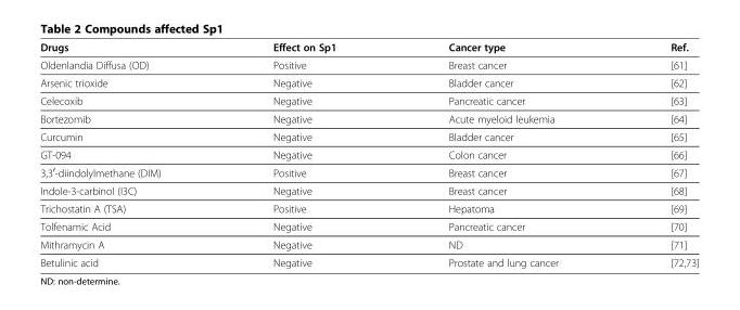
<table><thead><tr><td>Drugs</td><td>Effect on Sp1</td><td>Cancer type</td><td>Ref.</td></tr></thead><tbody><tr><td>Oldenlandia Diffusa (OD)</td><td>Positive</td><td>Breast cancer</td><td>[61]</td></tr><tr><td>Arsenic trioxide</td><td>Negative</td><td>Bladder cancer</td><td>[62]</td></tr><tr><td>Celecoxib</td><td>Negative</td><td>Pancreatic cancer</td><td>[63]</td></tr><tr><td>Bortezomib</td><td>Negative</td><td>Acute myeloid leukemia</td><td>[64]</td></tr><tr><td>Curcumin</td><td>Negative</td><td>Bladder cancer</td><td>[65]</td></tr><tr><td>GT-094</td><td>Negative</td><td>Colon cancer</td><td>[66]</td></tr><tr><td>3,3<sup>′</sup>-diindolylmethane (DIM)</td><td>Positive</td><td>Breast cancer</td><td>[67]</td></tr><tr><td>Indole-3-carbinol (I3C)</td><td>Negative</td><td>Breast cancer</td><td>[68]</td></tr><tr><td>Trichostatin A (TSA)</td><td>Positive</td><td>Hepatoma</td><td>[69]</td></tr><tr><td>Tolfenamic Acid</td><td>Negative</td><td>Pancreatic cancer</td><td>[70]</td></tr><tr><td>Mithramycin A</td><td>Negative</td><td>ND</td><td>[71]</td></tr><tr><td>Betulinic acid</td><td>Negative</td><td>Prostate and lung cancer</td><td>[72,73]</td></tr></tbody></table>